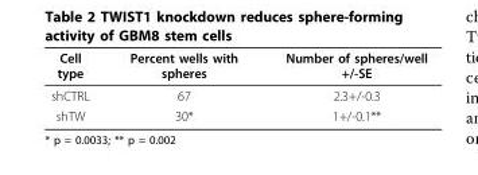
<table><thead><tr><td>Cell type</td><td>Percent wells with spheres</td><td>Number of spheres/well +/-SE</td></tr></thead><tbody><tr><td>shCTRL</td><td>67</td><td>2.3+/-0.3</td></tr><tr><td>shTW</td><td>30*</td><td>1+/-0.1**</td></tr></tbody></table>